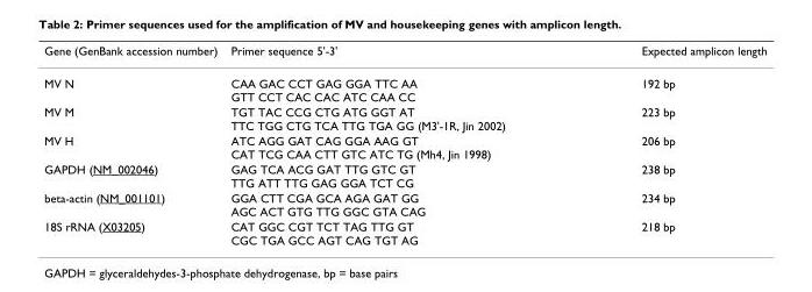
<table><thead><tr><td>Gene (GenBank accession number)</td><td>Primer sequence 5&#x27;-3&#x27;</td><td>Expected amplicon length</td></tr></thead><tbody><tr><td>MV N</td><td>CAA GAC CCT GAG GGA TTC AA GTT CCT CAC CAC ATC CAA CC</td><td>192 bp</td></tr><tr><td>MV M</td><td>TGT TAC CCG CTG ATG GGT AT TTC TGG CTG TCA TTG TGA GG (M3&#x27;-1R, Jin 2002)</td><td>223 bp</td></tr><tr><td>MV H</td><td>ATC AGG GAT CAG GGA AAG GT CAT TCG CAA CTT GTC ATC TG (Mh4, Jin 1998)</td><td>206 bp</td></tr><tr><td>GAPDH (NM_002046)</td><td>GAG TCA ACG GAT TTG GTC GT TTG ATT TTG GAG GGA TCT CG</td><td>238 bp</td></tr><tr><td>beta-actin (NM_001101)</td><td>GGA CTT CGA GCA AGA GAT GG AGC ACT GTG TTG GGC GTA CAG</td><td>234 bp</td></tr><tr><td>18S rRNA (X03205)</td><td>CAT GGC CGT TCT TAG TTG GT CGC TGA GCC AGT CAG TGT AG</td><td>218 bp</td></tr></tbody></table>